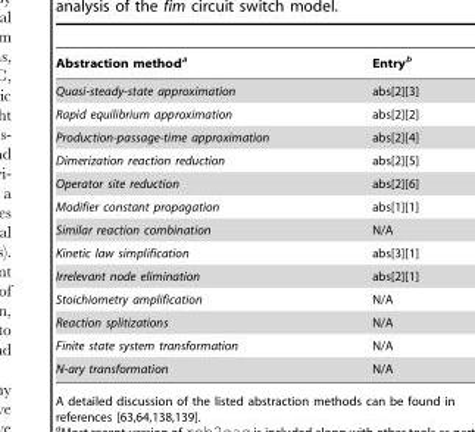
<table><thead><tr><td>Abstraction method<sup>a</sup></td><td>Entry<sup>b</sup></td></tr></thead><tbody><tr><td>Quasi-steady-state approximation</td><td>abs[2][3]</td></tr><tr><td>Rapid equilibrium approximation</td><td>abs[2][2]</td></tr><tr><td>Production-passage-time approximation</td><td>abs[2][4]</td></tr><tr><td>Dimerization reaction reduction</td><td>abs[2][5]</td></tr><tr><td>Operator site reduction</td><td>abs[2][6]</td></tr><tr><td>Modifier constant propagation</td><td>abs[1][1]</td></tr><tr><td>Similar reaction combination</td><td>N/A</td></tr><tr><td>Kinetic law simplification</td><td>abs[3][1]</td></tr><tr><td>Irrelevant node elimination</td><td>abs[2][1]</td></tr><tr><td>Stoichiometry amplification</td><td>N/A</td></tr><tr><td>Reaction splitizations</td><td>N/A</td></tr><tr><td>Finite state system transformation</td><td>N/A</td></tr><tr><td>N-ary transformation</td><td>N/A</td></tr></tbody></table>